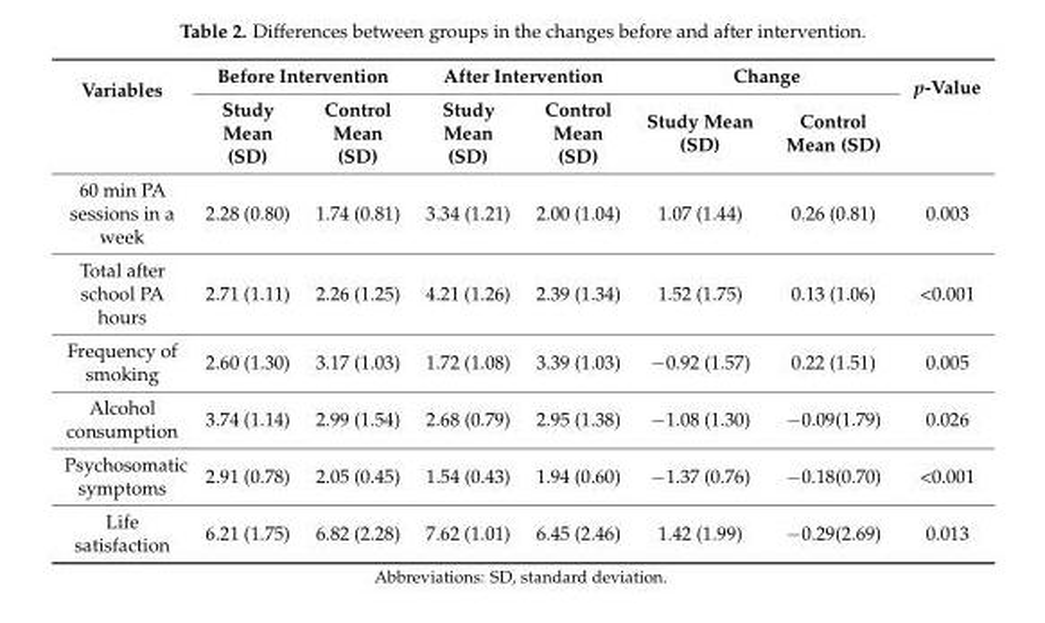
<table><thead><tr><td rowspan="2">Variables</td><td colspan="2">Before Intervention</td><td colspan="2">After Intervention</td><td colspan="2">Change</td><td rowspan="2">p-Value</td></tr><tr><td>Study Mean (SD)</td><td>Control Mean (SD)</td><td>Study Mean (SD)</td><td>Control Mean (SD)</td><td>Study Mean (SD)</td><td>Control Mean (SD)</td></tr></thead><tbody><tr><td>60 min PA sessions in a week</td><td>2.28 (0.80)</td><td>1.74 (0.81)</td><td>3.34 (1.21)</td><td>2.00 (1.04)</td><td>1.07 (1.44)</td><td>0.26 (0.81)</td><td>0.003</td></tr><tr><td>Total after school PA hours</td><td>2.71 (1.11)</td><td>2.26 (1.25)</td><td>4.21 (1.26)</td><td>2.39 (1.34)</td><td>1.52 (1.75)</td><td>0.13 (1.06)</td><td>&lt;0.001</td></tr><tr><td>Frequency of smoking</td><td>2.60 (1.30)</td><td>3.17 (1.03)</td><td>1.72 (1.08)</td><td>3.39 (1.03)</td><td>−0.92 (1.57)</td><td>0.22 (1.51)</td><td>0.005</td></tr><tr><td>Alcohol consumption</td><td>3.74 (1.14)</td><td>2.99 (1.54)</td><td>2.68 (0.79)</td><td>2.95 (1.38)</td><td>−1.08 (1.30)</td><td>−0.09(1.79)</td><td>0.026</td></tr><tr><td>Psychosomatic symptoms</td><td>2.91 (0.78)</td><td>2.05 (0.45)</td><td>1.54 (0.43)</td><td>1.94 (0.60)</td><td>−1.37 (0.76)</td><td>−0.18(0.70)</td><td>&lt;0.001</td></tr><tr><td>Life satisfaction</td><td>6.21 (1.75)</td><td>6.82 (2.28)</td><td>7.62 (1.01)</td><td>6.45 (2.46)</td><td>1.42 (1.99)</td><td>−0.29(2.69)</td><td>0.013</td></tr></tbody></table>